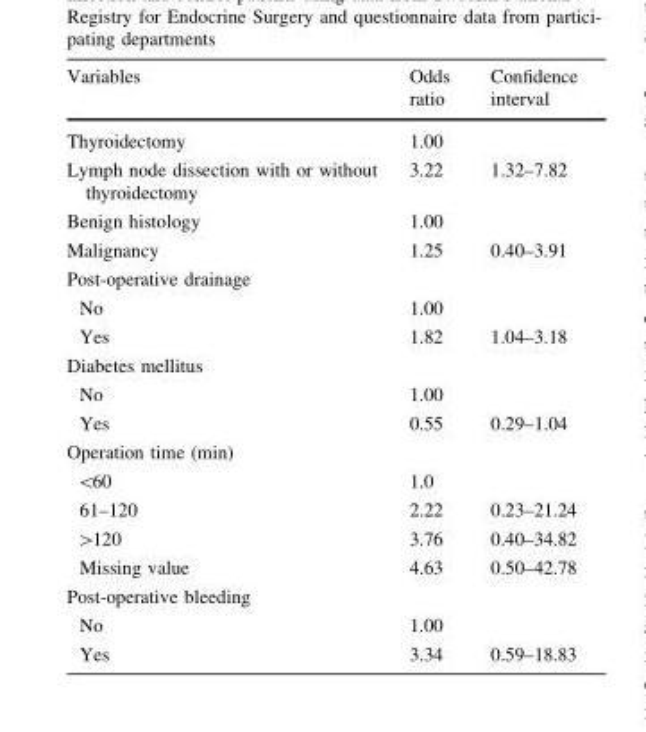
<table><thead><tr><td>Variables</td><td>Odds ratio</td><td>Confidence interval</td></tr></thead><tbody><tr><td>Thyroidectomy</td><td>1.00</td><td></td></tr><tr><td>Lymph node dissection with or without thyroidectomy</td><td>3.22</td><td>1.32–7.82</td></tr><tr><td>Benign histology</td><td>1.00</td><td></td></tr><tr><td>Malignancy</td><td>1.25</td><td>0.40–3.91</td></tr><tr><td colspan="3">Post-operative drainage</td></tr><tr><td>No</td><td>1.00</td><td></td></tr><tr><td>Yes</td><td>1.82</td><td>1.04–3.18</td></tr><tr><td colspan="3">Diabetes mellitus</td></tr><tr><td>No</td><td>1.00</td><td></td></tr><tr><td>Yes</td><td>0.55</td><td>0.29–1.04</td></tr><tr><td colspan="3">Operation time (min)</td></tr><tr><td>&lt;60</td><td>1.0</td><td></td></tr><tr><td>61–120</td><td>2.22</td><td>0.23–21.24</td></tr><tr><td>&gt;120</td><td>3.76</td><td>0.40–34.82</td></tr><tr><td>Missing value</td><td>4.63</td><td>0.50–42.78</td></tr><tr><td colspan="3">Post-operative bleeding</td></tr><tr><td>No</td><td>1.00</td><td></td></tr><tr><td>Yes</td><td>3.34</td><td>0.59–18.83</td></tr></tbody></table>